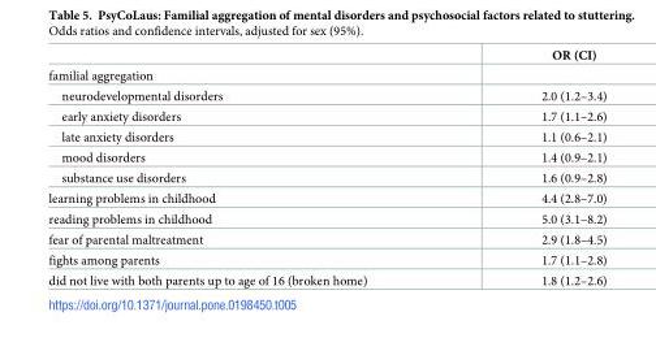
<table><thead><tr><td></td><td>OR (CI)</td></tr></thead><tbody><tr><td colspan="2">familial aggregation</td></tr><tr><td>neurodevelopmental disorders</td><td>2.0 (1.2–3.4)</td></tr><tr><td>early anxiety disorders</td><td>1.7 (1.1–2.6)</td></tr><tr><td>late anxiety disorders</td><td>1.1 (0.6–2.1)</td></tr><tr><td>mood disorders</td><td>1.4 (0.9–2.1)</td></tr><tr><td>substance use disorders</td><td>1.6 (0.9–2.8)</td></tr><tr><td>learning problems in childhood</td><td>4.4 (2.8–7.0)</td></tr><tr><td>reading problems in childhood</td><td>5.0 (3.1–8.2)</td></tr><tr><td>fear of parental maltreatment</td><td>2.9 (1.8–4.5)</td></tr><tr><td>fights among parents</td><td>1.7 (1.1–2.8)</td></tr><tr><td>did not live with both parents up to age of 16 (broken home)</td><td>1.8 (1.2–2.6)</td></tr></tbody></table>